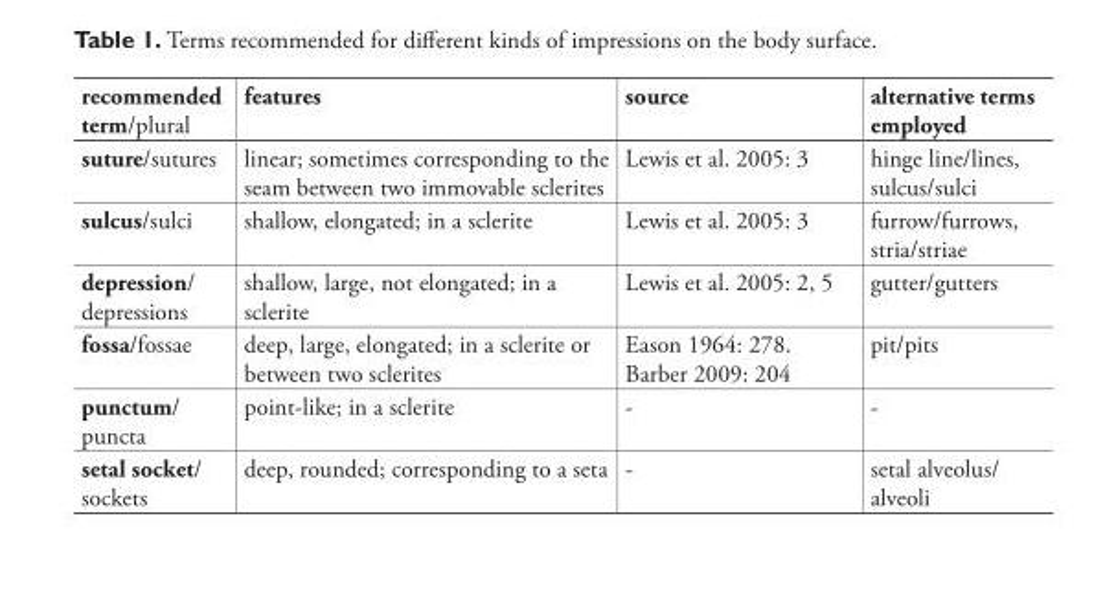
<table><thead><tr><td>recommended term/plural</td><td>features</td><td>source</td><td>alternative terms employed</td></tr></thead><tbody><tr><td>suture/sutures</td><td>linear; sometimes corresponding to the seam between two immovable sclerites</td><td>Lewis et al. 2005: 3</td><td>hinge line/lines, sulcus/sulci</td></tr><tr><td>sulcus/sulci</td><td>shallow, elongated; in a sclerite</td><td>Lewis et al. 2005: 3</td><td>furrow/furrows, stria/striae</td></tr><tr><td>depression/ depressions</td><td>shallow, large, not elongated; in a sclerite</td><td>Lewis et al. 2005: 2, 5</td><td>gutter/gutters</td></tr><tr><td>fossa/fossae</td><td>deep, large, elongated; in a sclerite or between two sclerites</td><td>Eason 1964: 278. Barber 2009: 204</td><td>pit/pits</td></tr><tr><td>punctum/ puncta</td><td>point-like; in a sclerite</td><td>-</td><td>-</td></tr><tr><td>setal socket/ sockets</td><td>deep, rounded; corresponding to a seta</td><td>-</td><td>setal alveolus/ alveoli</td></tr></tbody></table>